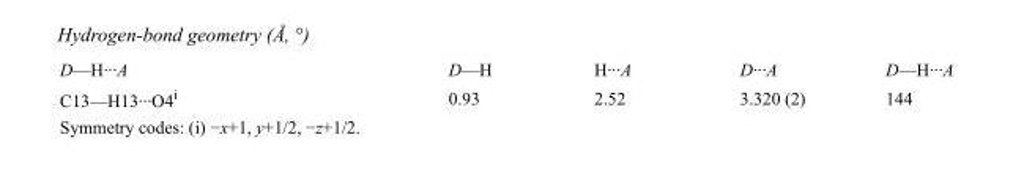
<table><tbody><tr><td>D—H···A</td><td>D—H</td><td>H···A</td><td>D···A</td><td>D—H···A</td></tr><tr><td>C13—H13···O4<sup>i</sup></td><td>0.93</td><td>2.52</td><td>3.320 (2)</td><td>144</td></tr></tbody></table>